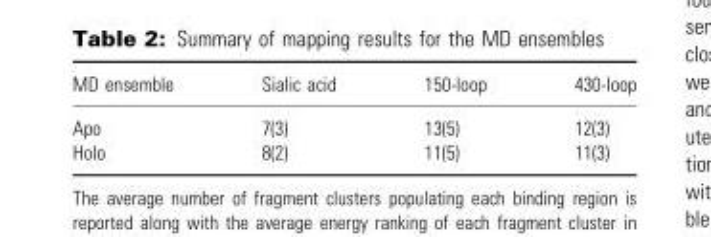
<table><thead><tr><td>MD ensemble</td><td>Sialic acid</td><td>150-loop</td><td>430-loop</td></tr></thead><tbody><tr><td>Apo</td><td>7(3)</td><td>13(5)</td><td>12(3)</td></tr><tr><td>Holo</td><td>8(2)</td><td>11(5)</td><td>11(3)</td></tr></tbody></table>